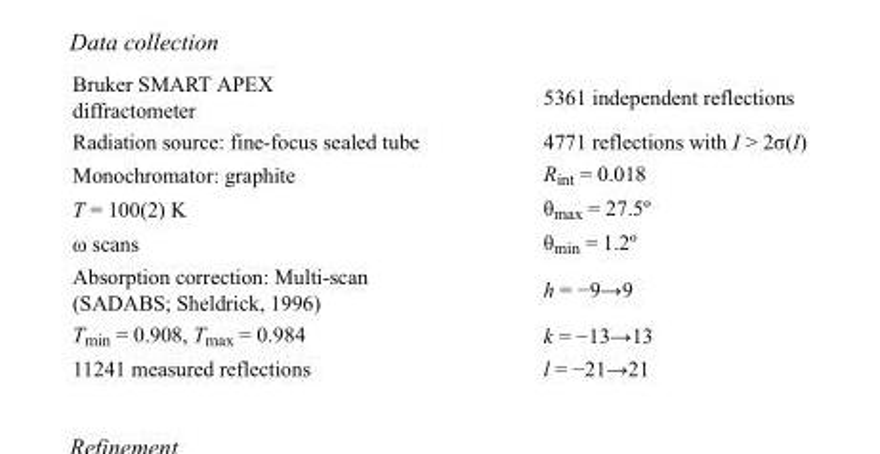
<table><tbody><tr><td>Bruker SMART APEX diffractometer</td><td>5361 independent reflections</td></tr><tr><td>Radiation source: fine-focus sealed tube</td><td>4771 reflections with I &gt; 2σ(I)</td></tr><tr><td>Monochromator: graphite</td><td>R<sub>int</sub> = 0.018</td></tr><tr><td>T = 100(2) K</td><td>θ<sub>max</sub> = 27.5º</td></tr><tr><td>ω scans</td><td>θ<sub>min</sub> = 1.2º</td></tr><tr><td>Absorption correction: Multi-scan (SADABS; Sheldrick, 1996)</td><td>h = −9→9</td></tr><tr><td>T<sub>min</sub> = 0.908, T<sub>max</sub> = 0.984</td><td>k = −13→13</td></tr><tr><td>11241 measured reflections</td><td>l = −21→21</td></tr></tbody></table>